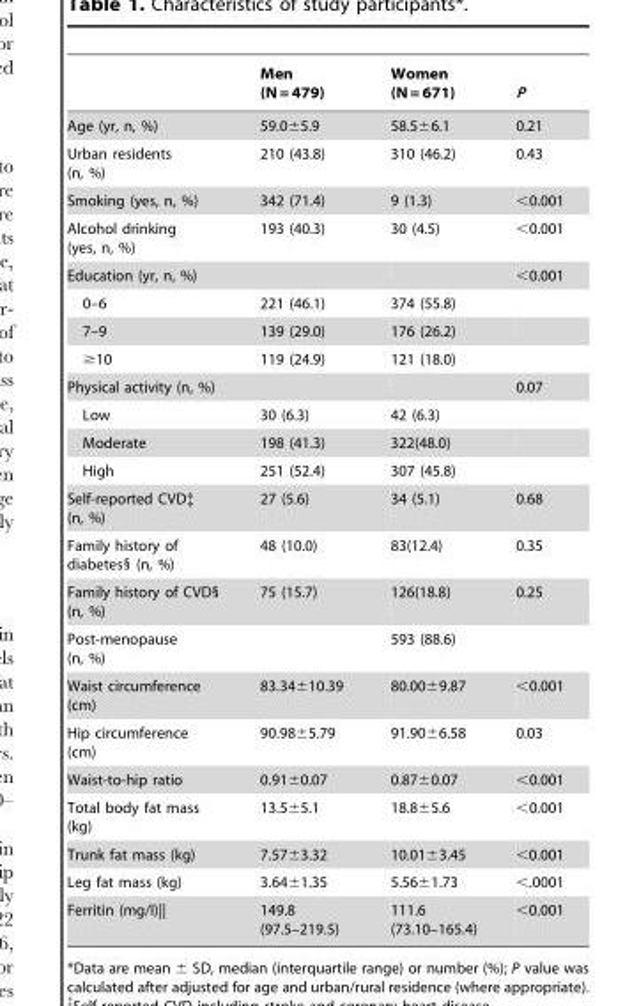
<table><thead><tr><td></td><td>Men (N = 479)</td><td>Women (N = 671)</td><td>P</td></tr></thead><tbody><tr><td>Age (yr, n, %)</td><td>59.0±5.9</td><td>58.5±6.1</td><td>0.21</td></tr><tr><td>Urban residents (n, %)</td><td>210 (43.8)</td><td>310 (46.2)</td><td>0.43</td></tr><tr><td>Smoking (yes, n, %)</td><td>342 (71.4)</td><td>9 (1.3)</td><td>&lt;0.001</td></tr><tr><td>Alcohol drinking (yes, n, %)</td><td>193 (40.3)</td><td>30 (4.5)</td><td>&lt;0.001</td></tr><tr><td>Education (yr, n, %)</td><td></td><td></td><td>&lt;0.001</td></tr><tr><td>0–6</td><td>221 (46.1)</td><td>374 (55.8)</td><td></td></tr><tr><td>7–9</td><td>139 (29.0)</td><td>176 (26.2)</td><td></td></tr><tr><td>≥10</td><td>119 (24.9)</td><td>121 (18.0)</td><td></td></tr><tr><td>Physical activity (n, %)</td><td></td><td></td><td>0.07</td></tr><tr><td>Low</td><td>30 (6.3)</td><td>42 (6.3)</td><td></td></tr><tr><td>Moderate</td><td>198 (41.3)</td><td>322(48.0)</td><td></td></tr><tr><td>High</td><td>251 (52.4)</td><td>307 (45.8)</td><td></td></tr><tr><td>Self-reported CVD‡ (n, %)</td><td>27 (5.6)</td><td>34 (5.1)</td><td>0.68</td></tr><tr><td>Family history of diabetes§ (n, %)</td><td>48 (10.0)</td><td>83(12.4)</td><td>0.35</td></tr><tr><td>Family history of CVD§ (n, %)</td><td>75 (15.7)</td><td>126(18.8)</td><td>0.25</td></tr><tr><td>Post-menopause (n, %)</td><td></td><td>593 (88.6)</td><td></td></tr><tr><td>Waist circumference (cm)</td><td>83.34±10.39</td><td>80.00±9.87</td><td>&lt;0.001</td></tr><tr><td>Hip circumference (cm)</td><td>90.98±5.79</td><td>91.90±6.58</td><td>0.03</td></tr><tr><td>Waist-to-hip ratio</td><td>0.91±0.07</td><td>0.87±0.07</td><td>&lt;0.001</td></tr><tr><td>Total body fat mass (kg)</td><td>13.5±5.1</td><td>18.8±5.6</td><td>&lt;0.001</td></tr><tr><td>Trunk fat mass (kg)</td><td>7.57±3.32</td><td>10.01±3.45</td><td>&lt;0.001</td></tr><tr><td>Leg fat mass (kg)</td><td>3.64±1.35</td><td>5.56±1.73</td><td>&lt;.0001</td></tr><tr><td>Ferritin (mg/l)||</td><td>149.8 (97.5–219.5)</td><td>111.6 (73.10–165.4)</td><td>&lt;0.001</td></tr></tbody></table>